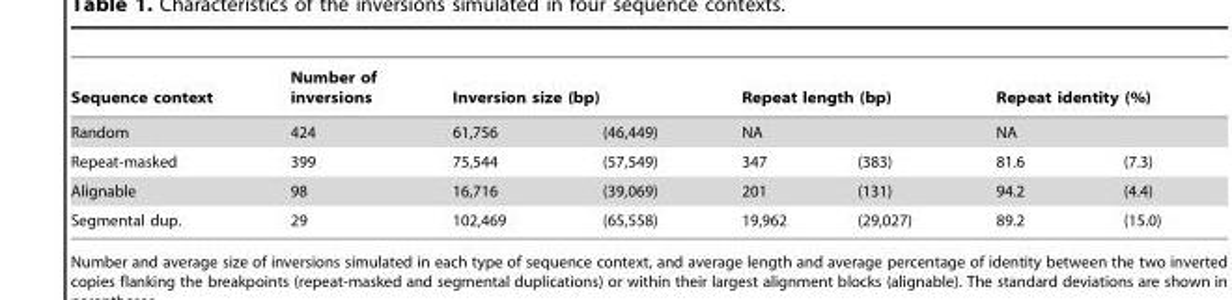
<table><thead><tr><td rowspan="3">Sequence context Random Repeat-masked</td><td rowspan="3">Number of inversions 424 399</td><td colspan="2">Inversion size (bp)</td><td rowspan="2" colspan="2">Repeat length (bp) NA</td><td rowspan="2" colspan="2">Repeat identity (%) NA</td></tr><tr><td rowspan="2">61,756 75,544</td><td rowspan="2">(46,449) (57,549)</td></tr><tr><td>347</td><td>(383)</td><td>81.6</td><td>(7.3)</td></tr></thead><tbody><tr><td>Alignable</td><td>98</td><td>16,716</td><td>(39,069)</td><td>201</td><td>(131)</td><td>94.2</td><td>(4.4)</td></tr><tr><td>Segmental dup.</td><td>29</td><td>102,469</td><td>(65,558)</td><td>19,962</td><td>(29,027)</td><td>89.2</td><td>(15.0)</td></tr></tbody></table>